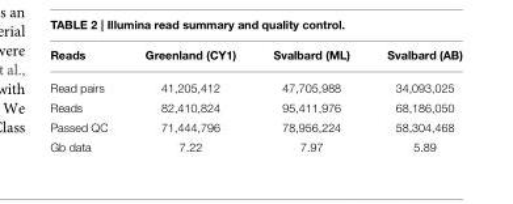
<table><thead><tr><td>Reads</td><td>Greenland (CY1)</td><td>Svalbard (ML)</td><td>Svalbard (AB)</td></tr></thead><tbody><tr><td>Read pairs</td><td>41,205,412</td><td>47,705,988</td><td>34,093,025</td></tr><tr><td>Reads</td><td>82,410,824</td><td>95,411,976</td><td>68,186,050</td></tr><tr><td>Passed QC</td><td>71,444,796</td><td>78,956,224</td><td>58,304,468</td></tr><tr><td>Gb data</td><td>7.22</td><td>7.97</td><td>5.89</td></tr></tbody></table>